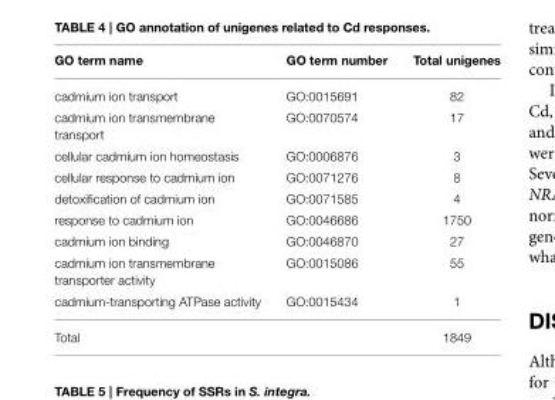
<table><thead><tr><td>GO term name</td><td>GO term number</td><td>Total unigenes</td></tr></thead><tbody><tr><td>cadmium ion transport</td><td>GO:0015691</td><td>82</td></tr><tr><td>cadmium ion transmembrane transport</td><td>GO:0070574</td><td>17</td></tr><tr><td>cellular cadmium ion homeostasis</td><td>GO:0006876</td><td>3</td></tr><tr><td>cellular response to cadmium ion</td><td>GO:0071276</td><td>8</td></tr><tr><td>detoxification of cadmium ion</td><td>GO:0071585</td><td>4</td></tr><tr><td>response to cadmium ion</td><td>GO:0046686</td><td>1750</td></tr><tr><td>cadmium ion binding</td><td>GO:0046870</td><td>27</td></tr><tr><td>cadmium ion transmembrane transporter activity</td><td>GO:0015086</td><td>55</td></tr><tr><td>cadmium-transporting ATPase activity</td><td>GO:0015434</td><td>1</td></tr><tr><td>Total</td><td></td><td>1849</td></tr></tbody></table>